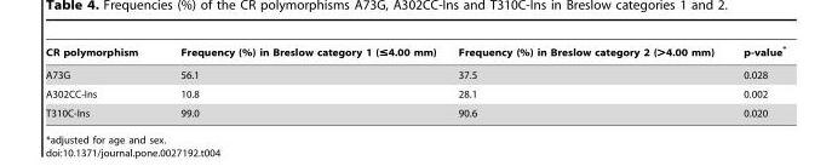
<table><thead><tr><td>CR polymorphism</td><td>Frequency (%) in Breslow category 1 (≤4.00 mm)</td><td>Frequency (%) in Breslow category 2 (&gt;4.00 mm)</td><td>p-value*</td></tr></thead><tbody><tr><td>A73G</td><td>56.1</td><td>37.5</td><td>0.028</td></tr><tr><td>A302CC-Ins</td><td>10.8</td><td>28.1</td><td>0.002</td></tr><tr><td>T310C-Ins</td><td>99.0</td><td>90.6</td><td>0.020</td></tr></tbody></table>